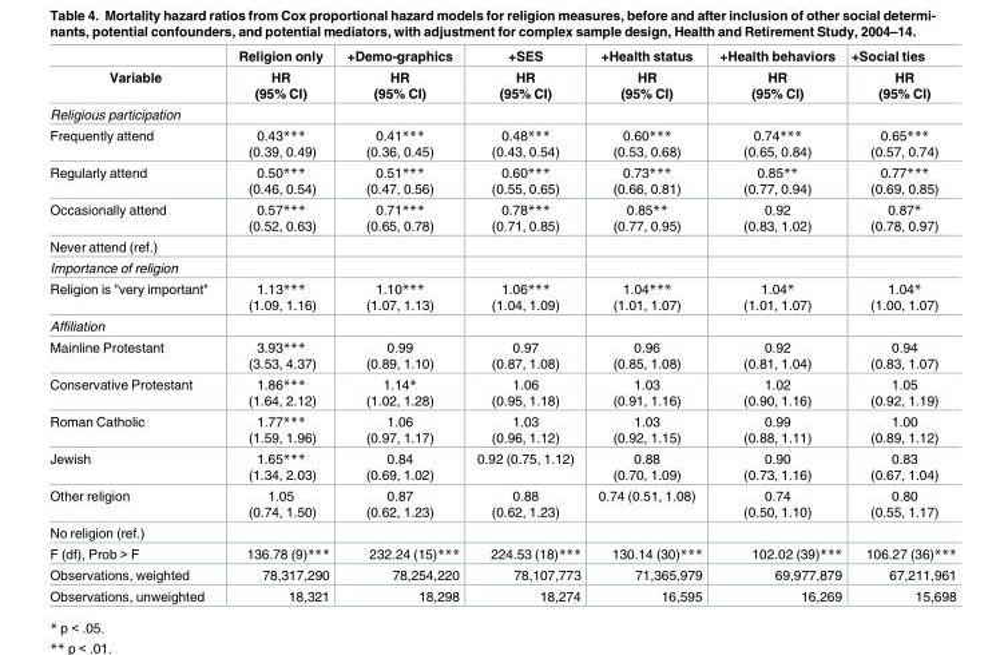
<table><thead><tr><td rowspan="2">Variable</td><td rowspan="2">Religion only HR (95% CI)</td><td rowspan="2">+Demo-graphics HR (95% CI)</td><td rowspan="2">+SES HR (95% CI)</td><td rowspan="2">+Health status HR (95% CI)</td><td rowspan="2">+Health behaviors HR (95% CI)</td><td rowspan="2">+Social ties HR (95% CI)</td></tr><tr></tr></thead><tbody><tr><td colspan="7">Religious participation</td></tr><tr><td>Frequently attend</td><td>0.43*** (0.39, 0.49)</td><td>0.41*** (0.36, 0.45)</td><td>0.48*** (0.43, 0.54)</td><td>0.60*** (0.53, 0.68)</td><td>0.74*** (0.65, 0.84)</td><td>0.65*** (0.57, 0.74)</td></tr><tr><td>Regularly attend</td><td>0.50*** (0.46, 0.54)</td><td>0.51*** (0.47, 0.56)</td><td>0.60*** (0.55, 0.65)</td><td>0.73*** (0.66, 0.81)</td><td>0.85** (0.77, 0.94)</td><td>0.77*** (0.69, 0.85)</td></tr><tr><td>Occasionally attend</td><td>0.57*** (0.52, 0.63)</td><td>0.71*** (0.65, 0.78)</td><td>0.78*** (0.71, 0.85)</td><td>0.85** (0.77, 0.95)</td><td>0.92 (0.83, 1.02)</td><td>0.87* (0.78, 0.97)</td></tr><tr><td colspan="7">Never attend (ref.)</td></tr><tr><td colspan="7">Importance of religion</td></tr><tr><td>Religion is &quot;very important&quot;</td><td>1.13*** (1.09, 1.16)</td><td>1.10*** (1.07, 1.13)</td><td>1.06*** (1.04, 1.09)</td><td>1.04*** (1.01, 1.07)</td><td>1.04* (1.01, 1.07)</td><td>1.04* (1.00, 1.07)</td></tr><tr><td colspan="7">Affiliation</td></tr><tr><td>Mainline Protestant</td><td>3.93*** (3.53, 4.37)</td><td>0.99 (0.89, 1.10)</td><td>0.97 (0.87, 1.08)</td><td>0.96 (0.85, 1.08)</td><td>0.92 (0.81, 1.04)</td><td>0.94 (0.83, 1.07)</td></tr><tr><td>Conservative Protestant</td><td>1.86*** (1.64, 2.12)</td><td>1.14* (1.02, 1.28)</td><td>1.06 (0.95, 1.18)</td><td>1.03 (0.91, 1.16)</td><td>1.02 (0.90, 1.16)</td><td>1.05 (0.92, 1.19)</td></tr><tr><td>Roman Catholic</td><td>1.77*** (1.59, 1.96)</td><td>1.06 (0.97, 1.17)</td><td>1.03 (0.96, 1.12)</td><td>1.03 (0.92, 1.15)</td><td>0.99 (0.88, 1.11)</td><td>1.00 (0.89, 1.12)</td></tr><tr><td>Jewish</td><td>1.65*** (1.34, 2.03)</td><td>0.84 (0.69, 1.02)</td><td>0.92 (0.75, 1.12)</td><td>0.88 (0.70, 1.09)</td><td>0.90 (0.73, 1.16)</td><td>0.83 (0.67, 1.04)</td></tr><tr><td>Other religion</td><td>1.05 (0.74, 1.50)</td><td>0.87 (0.62, 1.23)</td><td>0.88 (0.62, 1.23)</td><td>0.74 (0.51, 1.08)</td><td>0.74 (0.50, 1.10)</td><td>0.80 (0.55, 1.17)</td></tr><tr><td colspan="7">No religion (ref.)</td></tr><tr><td>F (df), Prob &gt; F</td><td>136.78 (9)***</td><td>232.24 (15)***</td><td>224.53 (18)***</td><td>130.14 (30)***</td><td>102.02 (39)***</td><td>106.27 (36)***</td></tr><tr><td>Observations, weighted</td><td>78,317,290</td><td>78,254,220</td><td>78,107,773</td><td>71,365,979</td><td>69,977,879</td><td>67,211,961</td></tr><tr><td>Observations, unweighted</td><td>18,321</td><td>18,298</td><td>18,274</td><td>16,595</td><td>16,269</td><td>15,698</td></tr></tbody></table>